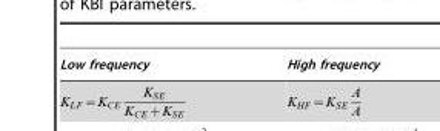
<table><thead><tr><td>Low frequency</td><td>High frequency</td></tr></thead><tbody></tbody></table>